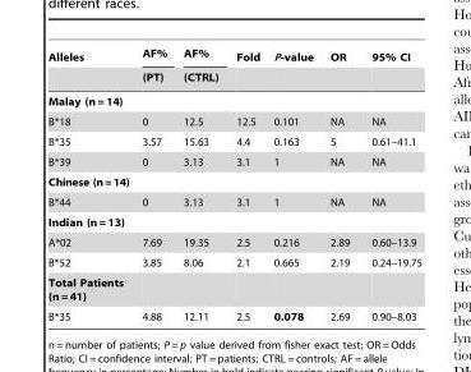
<table><thead><tr><td rowspan="2">Alleles</td><td rowspan="2">AF% (PT)</td><td rowspan="2">AF% (CTRL)</td><td rowspan="2">Fold</td><td rowspan="2">P-value</td><td rowspan="2">OR</td><td rowspan="2">95% CI</td></tr><tr></tr></thead><tbody><tr><td colspan="7">Malay (n = 14)</td></tr><tr><td>B*18</td><td>0</td><td>12.5</td><td>12.5</td><td>0.101</td><td>NA</td><td>NA</td></tr><tr><td>B*35</td><td>3.57</td><td>15.63</td><td>4.4</td><td>0.163</td><td>5</td><td>0.61–41.1</td></tr><tr><td>B*39</td><td>0</td><td>3.13</td><td>3.1</td><td>1</td><td>NA</td><td>NA</td></tr><tr><td colspan="7">Chinese (n=14)</td></tr><tr><td>B*44</td><td>0</td><td>3.13</td><td>3.1</td><td>1</td><td>NA</td><td>NA</td></tr><tr><td colspan="7">Indian (n = 13)</td></tr><tr><td>A*02</td><td>7.69</td><td>19.35</td><td>2.5</td><td>0.216</td><td>2.89</td><td>0.60–13.9</td></tr><tr><td>B*52</td><td>3.85</td><td>8.06</td><td>2.1</td><td>0.665</td><td>2.19</td><td>0.24–19.75</td></tr><tr><td colspan="7">Total Patients (n = 41)</td></tr><tr><td>B*35</td><td>4.88</td><td>12.11</td><td>2.5</td><td>0.078</td><td>2.69</td><td>0.90–8.03</td></tr></tbody></table>